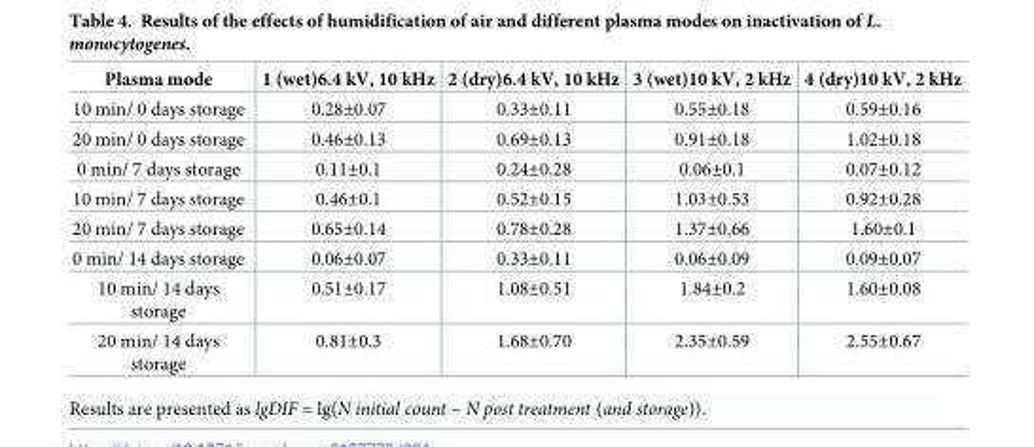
<table><thead><tr><td>Plasma mode</td><td>1 (wet)6.4 kV, 10 kHz</td><td>2 (dry)6.4 kV, 10 kHz</td><td>3 (wet)10 kV, 2 kHz</td><td>4 (dry)10 kV, 2 kHz</td></tr></thead><tbody><tr><td>10 min/ 0 days storage</td><td>0.28±0.07</td><td>0.33±0.11</td><td>0.55±0.18</td><td>0.59±0.16</td></tr><tr><td>20 min/ 0 days storage</td><td>0.46±0.13</td><td>0.69±0.13</td><td>0.91±0.18</td><td>1.02±0.18</td></tr><tr><td>0 min/ 7 days storage</td><td>0.11±0.1</td><td>0.24±0.28</td><td>0.06±0.1</td><td>0.07±0.12</td></tr><tr><td>10 min/ 7 days storage</td><td>0.46±0.1</td><td>0.52±0.15</td><td>1.03±0.53</td><td>0.92±0.28</td></tr><tr><td>20 min/ 7 days storage</td><td>0.65±0.14</td><td>0.78±0.28</td><td>1.37±0.66</td><td>1.60±0.1</td></tr><tr><td>0 min/ 14 days storage</td><td>0.06±0.07</td><td>0.33±0.11</td><td>0.06±0.09</td><td>0.09±0.07</td></tr><tr><td>10 min/ 14 days storage</td><td>0.51±0.17</td><td>1.08±0.51</td><td>1.84±0.2</td><td>1.60±0.08</td></tr><tr><td>20 min/ 14 days storage</td><td>0.81±0.3</td><td>1.68±0.70</td><td>2.35±0.59</td><td>2.55±0.67</td></tr></tbody></table>